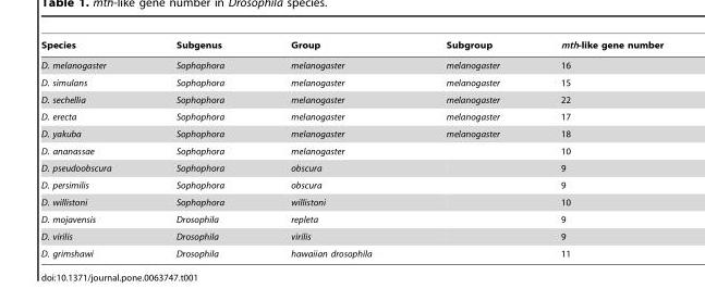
<table><thead><tr><td>Species</td><td>Subgenus</td><td>Group</td><td>Subgroup</td><td>mth-like gene number</td></tr></thead><tbody><tr><td>D. melanogaster</td><td>Sophophora</td><td>melanogaster</td><td>melanogaster</td><td>16</td></tr><tr><td>D. simulans</td><td>Sophophora</td><td>melanogaster</td><td>melanogaster</td><td>15</td></tr><tr><td>D. sechellia</td><td>Sophophora</td><td>melanogaster</td><td>melanogaster</td><td>22</td></tr><tr><td>D. erecta</td><td>Sophophora</td><td>melanogaster</td><td>melanogaster</td><td>17</td></tr><tr><td>D. yakuba</td><td>Sophophora</td><td>melanogaster</td><td>melanogaster</td><td>18</td></tr><tr><td>D. ananassae</td><td>Sophophora</td><td>melanogaster</td><td></td><td>10</td></tr><tr><td>D. pseudoobscura</td><td>Sophophora</td><td>obscura</td><td></td><td>9</td></tr><tr><td>D. persimilis</td><td>Sophophora</td><td>obscura</td><td></td><td>9</td></tr><tr><td>D. willistoni</td><td>Sophophora</td><td>willistoni</td><td></td><td>10</td></tr><tr><td>D. mojavensis</td><td>Drosophila</td><td>repleta</td><td></td><td>9</td></tr><tr><td>D. virilis</td><td>Drosophila</td><td>virilis</td><td></td><td>9</td></tr><tr><td>D. grimshawi</td><td>Drosophila</td><td>hawaiian drosophila</td><td></td><td>11</td></tr></tbody></table>